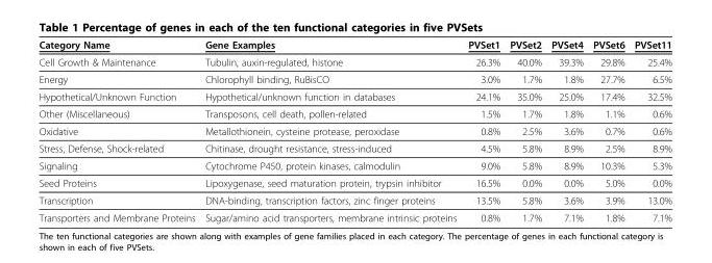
<table><thead><tr><td>Category Name</td><td>Gene Examples</td><td>PVSet1</td><td>PVSet2</td><td>PVSet4</td><td>PVSet6</td><td>PVSet11</td></tr></thead><tbody><tr><td>Cell Growth &amp; Maintenance</td><td>Tubulin, auxin-regulated, histone</td><td>26.3%</td><td>40.0%</td><td>39.3%</td><td>29.8%</td><td>25.4%</td></tr><tr><td>Energy</td><td>Chlorophyll binding, RuBisCO</td><td>3.0%</td><td>1.7%</td><td>1.8%</td><td>27.7%</td><td>6.5%</td></tr><tr><td>Hypothetical/Unknown Function</td><td>Hypothetical/unknown function in databases</td><td>24.1%</td><td>35.0%</td><td>25.0%</td><td>17.4%</td><td>32.5%</td></tr><tr><td>Other (Miscellaneous)</td><td>Transposons, cell death, pollen-related</td><td>1.5%</td><td>1.7%</td><td>1.8%</td><td>1.1%</td><td>0.6%</td></tr><tr><td>Oxidative</td><td>Metallothionein, cysteine protease, peroxidase</td><td>0.8%</td><td>2.5%</td><td>3.6%</td><td>0.7%</td><td>0.6%</td></tr><tr><td>Stress, Defense, Shock-related</td><td>Chitinase, drought resistance, stress-induced</td><td>4.5%</td><td>5.8%</td><td>8.9%</td><td>2.5%</td><td>8.9%</td></tr><tr><td>Signaling</td><td>Cytochrome P450, protein kinases, calmodulin</td><td>9.0%</td><td>5.8%</td><td>8.9%</td><td>10.3%</td><td>5.3%</td></tr><tr><td>Seed Proteins</td><td>Lipoxygenase, seed maturation protein, trypsin inhibitor</td><td>16.5%</td><td>0.0%</td><td>0.0%</td><td>5.0%</td><td>0.0%</td></tr><tr><td>Transcription</td><td>DNA-binding, transcription factors, zinc finger proteins</td><td>13.5%</td><td>5.8%</td><td>3.6%</td><td>3.9%</td><td>13.0%</td></tr><tr><td>Transporters and Membrane Proteins</td><td>Sugar/amino acid transporters, membrane intrinsic proteins</td><td>0.8%</td><td>1.7%</td><td>7.1%</td><td>1.8%</td><td>7.1%</td></tr></tbody></table>